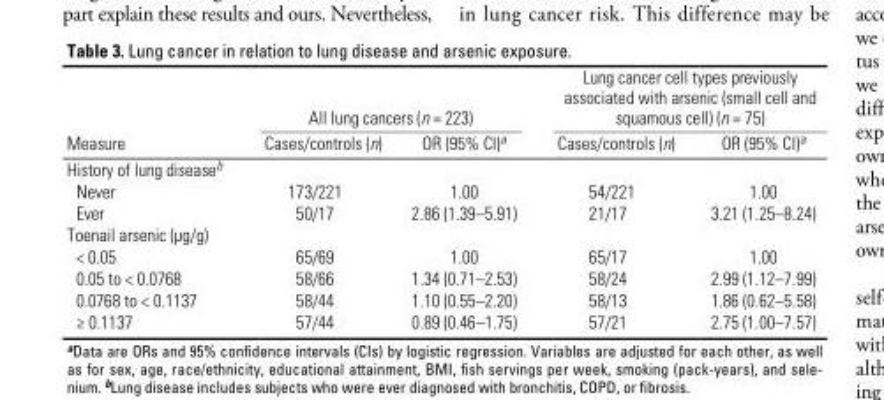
<table><thead><tr><td rowspan="2">Measure</td><td colspan="2">All lung cancers (n = 223)</td><td colspan="2">Lung cancer cell types previously associated with arsenic (small cell and squamous cell) (n = 75)</td></tr><tr><td>Cases/controls (n)</td><td>OR (95% CI)<sup>a</sup></td><td>Cases/controls (n)</td><td>OR (95% CI)<sup>a</sup></td></tr></thead><tbody><tr><td colspan="5">History of lung disease<sup>b</sup></td></tr><tr><td>Never</td><td>173/221</td><td>1.00</td><td>54/221</td><td>1.00</td></tr><tr><td>Ever</td><td>50/17</td><td>2.86 (1.39–5.91)</td><td>21/17</td><td>3.21 (1.25–8.24)</td></tr><tr><td colspan="5">Toenail arsenic (µg/g)</td></tr><tr><td>&lt; 0.05</td><td>65/69</td><td>1.00</td><td>65/17</td><td>1.00</td></tr><tr><td>0.05 to &lt; 0.0768</td><td>58/66</td><td>1.34 (0.71–2.53)</td><td>58/24</td><td>2.99 (1.12–7.99)</td></tr><tr><td>0.0768 to &lt; 0.1137</td><td>58/44</td><td>1.10 (0.55–2.20)</td><td>58/13</td><td>1.86 (0.62–5.58)</td></tr><tr><td>≥ 0.1137</td><td>57/44</td><td>0.89 (0.46–1.75)</td><td>57/21</td><td>2.75 (1.00–7.57)</td></tr></tbody></table>